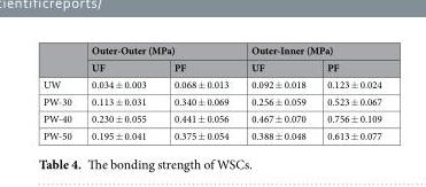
<table><thead><tr><td rowspan="2"></td><td colspan="2">Outer-Outer (MPa)</td><td colspan="2">Outer-Inner (MPa)</td></tr><tr><td>UF</td><td>PF</td><td>UF</td><td>PF</td></tr></thead><tbody><tr><td>UW</td><td>0.034 ± 0.003</td><td>0.068 ± 0.013</td><td>0.092 ± 0.018</td><td>0.123 ± 0.024</td></tr><tr><td>PW-30</td><td>0.113 ± 0.031</td><td>0.340 ± 0.069</td><td>0.256 ± 0.059</td><td>0.523 ± 0.067</td></tr><tr><td>PW-40</td><td>0.230 ± 0.055</td><td>0.441 ± 0.056</td><td>0.467 ± 0.070</td><td>0.756 ± 0.109</td></tr><tr><td>PW-50</td><td>0.195 ± 0.041</td><td>0.375 ± 0.054</td><td>0.388 ± 0.048</td><td>0.613 ± 0.077</td></tr></tbody></table>